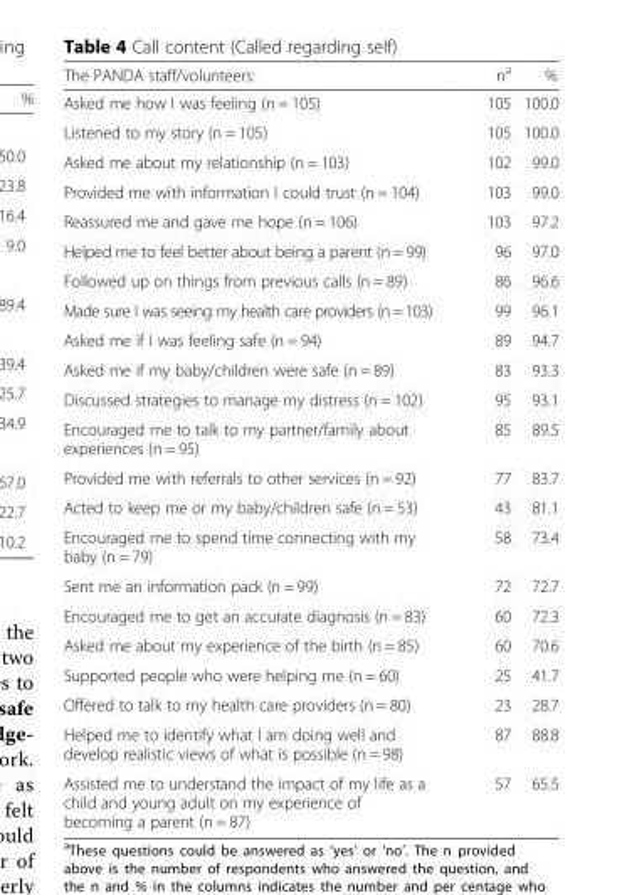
<table><thead><tr><td>The PANDA staff/volunteers:</td><td>n<sup>a</sup></td><td>%</td></tr></thead><tbody><tr><td>Asked me how I was feeling (n = 105)</td><td>105</td><td>100.0</td></tr><tr><td>Listened to my story (n = 105)</td><td>105</td><td>100.0</td></tr><tr><td>Asked me about my relationship (n = 103)</td><td>102</td><td>99.0</td></tr><tr><td>Provided me with information I could trust (n = 104)</td><td>103</td><td>99.0</td></tr><tr><td>Reassured me and gave me hope (n = 106)</td><td>103</td><td>97.2</td></tr><tr><td>Helped me to feel better about being a parent (n = 99)</td><td>96</td><td>97.0</td></tr><tr><td>Followed up on things from previous calls (n = 89)</td><td>86</td><td>96.6</td></tr><tr><td>Made sure I was seeing my health care providers (n = 103)</td><td>99</td><td>96.1</td></tr><tr><td>Asked me if I was feeling safe (n = 94)</td><td>89</td><td>94.7</td></tr><tr><td>Asked me if my baby/children were safe (n = 89)</td><td>83</td><td>93.3</td></tr><tr><td>Discussed strategies to manage my distress (n = 102)</td><td>95</td><td>93.1</td></tr><tr><td>Encouraged me to talk to my partner/family about experiences (n = 95)</td><td>85</td><td>89.5</td></tr><tr><td>Provided me with referrals to other services (n = 92)</td><td>77</td><td>83.7</td></tr><tr><td>Acted to keep me or my baby/children safe (n = 53)</td><td>43</td><td>81.1</td></tr><tr><td>Encouraged me to spend time connecting with my baby (n = 79)</td><td>58</td><td>73.4</td></tr><tr><td>Sent me an information pack (n = 99)</td><td>72</td><td>72.7</td></tr><tr><td>Encouraged me to get an accurate diagnosis (n = 83)</td><td>60</td><td>72.3</td></tr><tr><td>Asked me about my experience of the birth (n = 85)</td><td>60</td><td>70.6</td></tr><tr><td>Supported people who were helping me (n = 60)</td><td>25</td><td>41.7</td></tr><tr><td>Offered to talk to my health care providers (n = 80)</td><td>23</td><td>28.7</td></tr><tr><td>Helped me to identify what I am doing well and develop realistic views of what is possible (n = 98)</td><td>87</td><td>88.8</td></tr><tr><td>Assisted me to understand the impact of my life as a child and young adult on my experience of becoming a parent (n = 87)</td><td>57</td><td>65.5</td></tr></tbody></table>